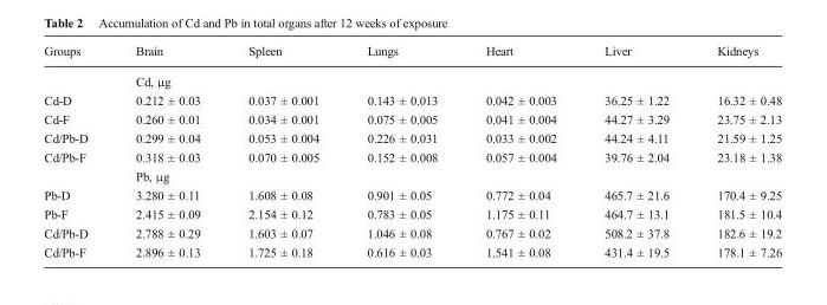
<table><thead><tr><td>Groups</td><td>Brain</td><td>Spleen</td><td>Lungs</td><td>Heart</td><td>Liver</td><td>Kidneys</td></tr></thead><tbody><tr><td></td><td colspan="6">Cd, μg</td></tr><tr><td>Cd-D</td><td>0.212 ± 0.03</td><td>0.037 ± 0.001</td><td>0.143 ± 0.013</td><td>0.042 ± 0.003</td><td>36.25 ± 1.22</td><td>16.32 ± 0.48</td></tr><tr><td>Cd-F</td><td>0.260 ± 0.01</td><td>0.034 ± 0.001</td><td>0.075 ± 0.005</td><td>0.041 ± 0.004</td><td>44.27 ± 3.29</td><td>23.75 ± 2.13</td></tr><tr><td>Cd/Pb-D</td><td>0.299 ± 0.04</td><td>0.053 ± 0.004</td><td>0.226 ± 0.031</td><td>0.033 ± 0.002</td><td>44.24 ± 4.11</td><td>21.59 ± 1.25</td></tr><tr><td rowspan="2">Cd/Pb-F</td><td>0.318 ± 0.03</td><td>0.070 ± 0.005</td><td>0.152 ± 0.008</td><td>0.057 ± 0.004</td><td>39.76 ± 2.04</td><td>23.18 ± 1.38</td></tr><tr><td colspan="6">Pb, μg</td></tr><tr><td>Pb-D</td><td>3.280 ± 0.11</td><td>1.608 ± 0.08</td><td>0.901 ± 0.05</td><td>0.772 ± 0.04</td><td>465.7 ± 21.6</td><td>170.4 ± 9.25</td></tr><tr><td>Pb-F</td><td>2.415 ± 0.09</td><td>2.154 ± 0.12</td><td>0.783 ± 0.05</td><td>1.175 ± 0.11</td><td>464.7 ± 13.1</td><td>181.5 ± 10.4</td></tr><tr><td>Cd/Pb-D</td><td>2.788 ± 0.29</td><td>1.603 ± 0.07</td><td>1.046 ± 0.08</td><td>0.767 ± 0.02</td><td>508.2 ± 37.8</td><td>182.6 ± 19.2</td></tr><tr><td>Cd/Pb-F</td><td>2.896 ± 0.13</td><td>1.725 ± 0.18</td><td>0.616 ± 0.03</td><td>1.541 ± 0.08</td><td>431.4 ± 19.5</td><td>178.1 ± 7.26</td></tr></tbody></table>